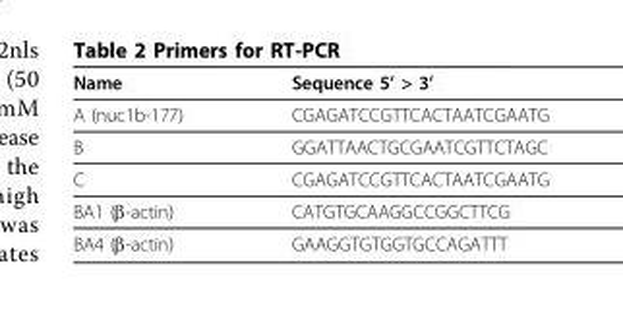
<table><thead><tr><td>Name</td><td>Sequence 5’ &gt; 3’</td></tr></thead><tbody><tr><td>A (nuc1b-177)</td><td>CGAGATCCGTTCACTAATCGAATG</td></tr><tr><td>B</td><td>GGATTAACTGCGAATCGTTCTAGC</td></tr><tr><td>C</td><td>CGAGATCCGTTCACTAATCGAATG</td></tr><tr><td>BA1 (β-actin)</td><td>CATGTGCAAGGCCGGCTTCG</td></tr><tr><td>BA4 (β-actin)</td><td>GAAGGTGTGGTGCCAGATTT</td></tr></tbody></table>